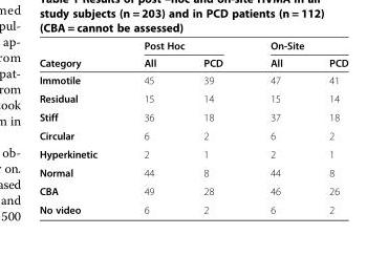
<table><thead><tr><td rowspan="2">Category</td><td colspan="2">Post Hoc</td><td colspan="2">On-Site</td></tr><tr><td>All</td><td>PCD</td><td>All</td><td>PCD</td></tr></thead><tbody><tr><td>Immotile</td><td>45</td><td>39</td><td>47</td><td>41</td></tr><tr><td>Residual</td><td>15</td><td>14</td><td>15</td><td>14</td></tr><tr><td>Stiff</td><td>36</td><td>18</td><td>37</td><td>18</td></tr><tr><td>Circular</td><td>6</td><td>2</td><td>6</td><td>2</td></tr><tr><td>Hyperkinetic</td><td>2</td><td>1</td><td>2</td><td>1</td></tr><tr><td>Normal</td><td>44</td><td>8</td><td>44</td><td>8</td></tr><tr><td>CBA</td><td>49</td><td>28</td><td>46</td><td>26</td></tr><tr><td>No video</td><td>6</td><td>2</td><td>6</td><td>2</td></tr></tbody></table>